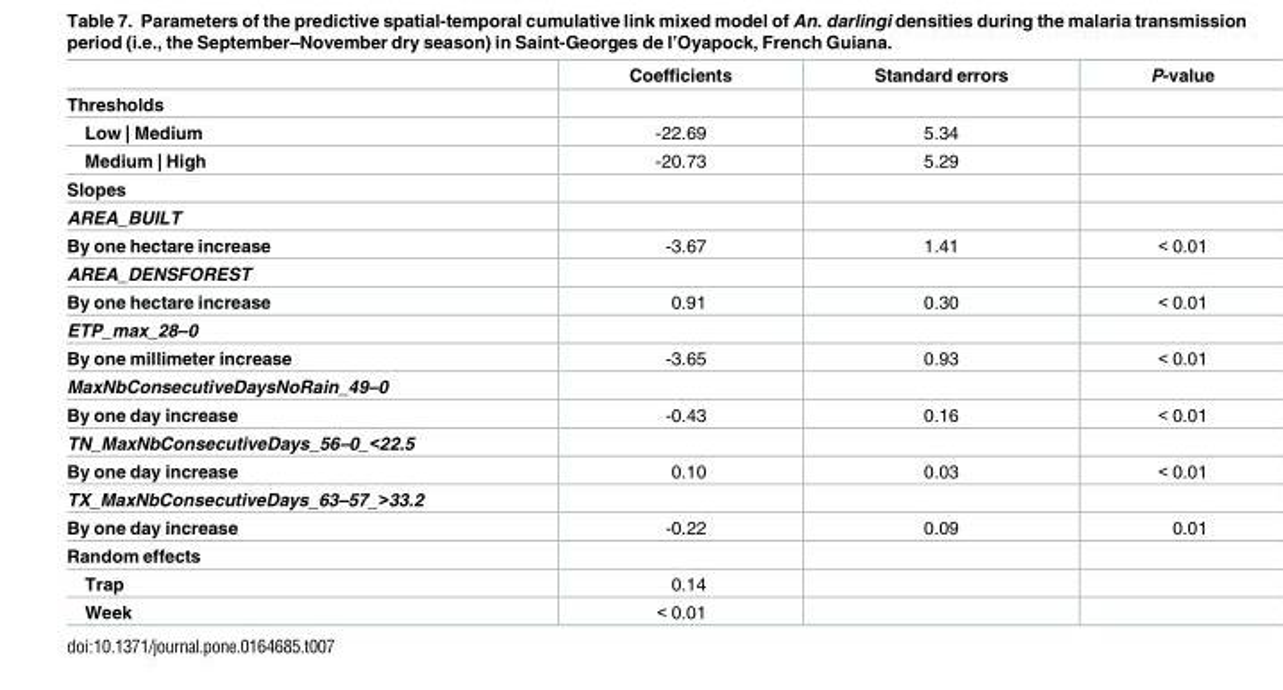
<table><thead><tr><td></td><td>Coefficients</td><td>Standard errors</td><td>P-value</td></tr></thead><tbody><tr><td colspan="4">Thresholds</td></tr><tr><td>Low | Medium</td><td>-22.69</td><td>5.34</td><td></td></tr><tr><td>Medium | High</td><td>-20.73</td><td>5.29</td><td></td></tr><tr><td colspan="4">Slopes</td></tr><tr><td colspan="4">AREA_BUILT</td></tr><tr><td>By one hectare increase</td><td>-3.67</td><td>1.41</td><td>&lt; 0.01</td></tr><tr><td colspan="4">AREA_DENSFOREST</td></tr><tr><td>By one hectare increase</td><td>0.91</td><td>0.30</td><td>&lt; 0.01</td></tr><tr><td colspan="4">ETP_max_28–0</td></tr><tr><td>By one millimeter increase</td><td>-3.65</td><td>0.93</td><td>&lt; 0.01</td></tr><tr><td colspan="4">MaxNbConsecutiveDaysNoRain_49–0</td></tr><tr><td>By one day increase</td><td>-0.43</td><td>0.16</td><td>&lt; 0.01</td></tr><tr><td colspan="4">TN_MaxNbConsecutiveDays_56–0_&lt;22.5</td></tr><tr><td>By one day increase</td><td>0.10</td><td>0.03</td><td>&lt; 0.01</td></tr><tr><td colspan="4">TX_MaxNbConsecutiveDays_63–57_&gt;33.2</td></tr><tr><td>By one day increase</td><td>-0.22</td><td>0.09</td><td>0.01</td></tr><tr><td colspan="4">Random effects</td></tr><tr><td>Trap</td><td>0.14</td><td></td><td></td></tr><tr><td>Week</td><td>&lt; 0.01</td><td></td><td></td></tr></tbody></table>